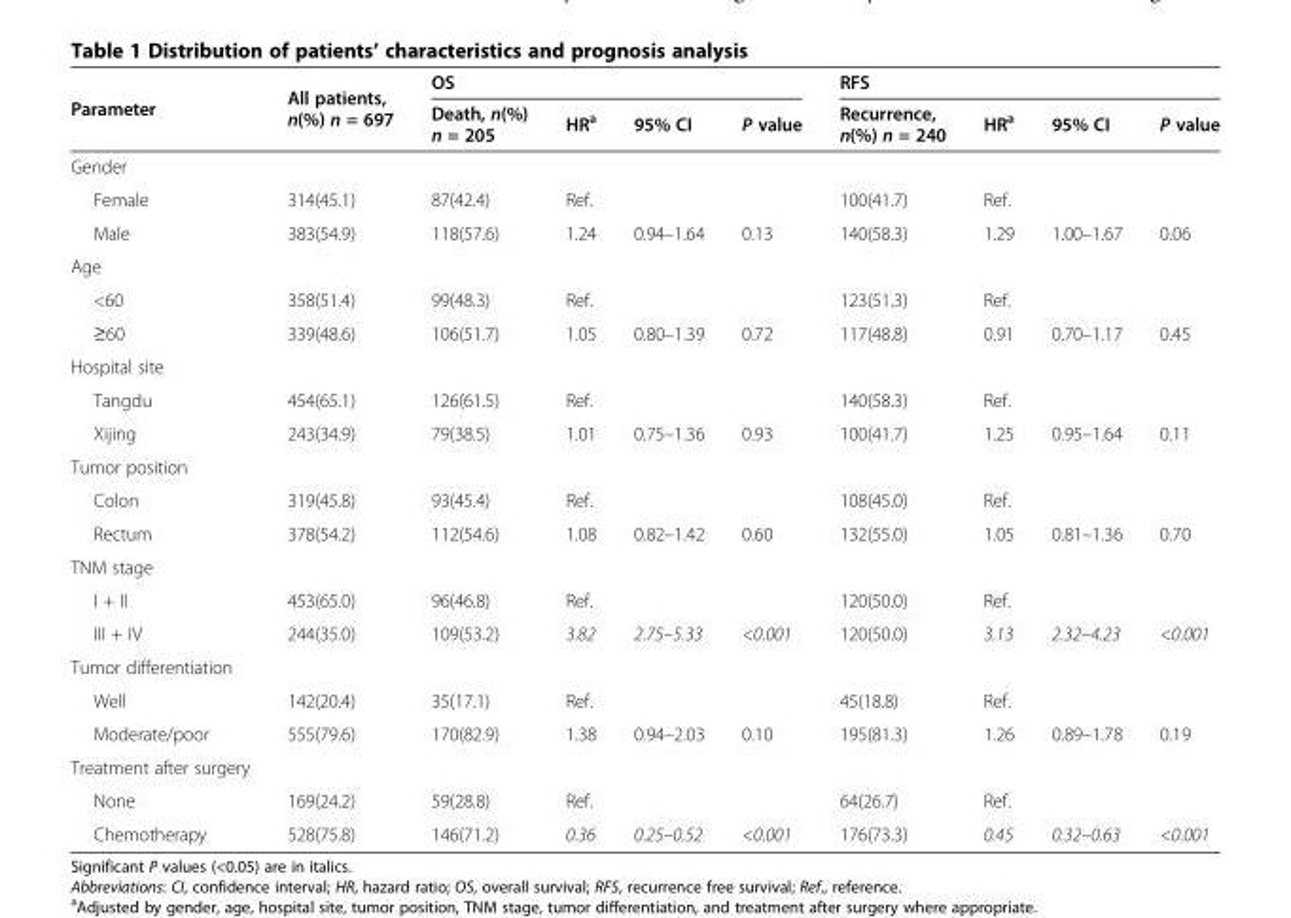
<table><thead><tr><td rowspan="2">Parameter</td><td rowspan="2">All patients, n(%) n = 697</td><td colspan="4">OS</td><td colspan="4">RFS</td></tr><tr><td>Death, n(%) n = 205</td><td>HR<sup>a</sup></td><td>95% CI</td><td>P value</td><td>Recurrence, n(%) n = 240</td><td>HR<sup>a</sup></td><td>95% CI</td><td>P value</td></tr></thead><tbody><tr><td colspan="10">Gender</td></tr><tr><td>Female</td><td>314(45.1)</td><td>87(42.4)</td><td>Ref.</td><td></td><td></td><td>100(41.7)</td><td>Ref.</td><td></td><td></td></tr><tr><td>Male</td><td>383(54.9)</td><td>118(57.6)</td><td>1.24</td><td>0.94–1.64</td><td>0.13</td><td>140(58.3)</td><td>1.29</td><td>1.00–1.67</td><td>0.06</td></tr><tr><td colspan="10">Age</td></tr><tr><td>&lt;60</td><td>358(51.4)</td><td>99(48.3)</td><td>Ref.</td><td></td><td></td><td>123(51.3)</td><td>Ref.</td><td></td><td></td></tr><tr><td>≥60</td><td>339(48.6)</td><td>106(51.7)</td><td>1.05</td><td>0.80–1.39</td><td>0.72</td><td>117(48.8)</td><td>0.91</td><td>0.70–1.17</td><td>0.45</td></tr><tr><td colspan="10">Hospital site</td></tr><tr><td>Tangdu</td><td>454(65.1)</td><td>126(61.5)</td><td>Ref.</td><td></td><td></td><td>140(58.3)</td><td>Ref.</td><td></td><td></td></tr><tr><td>Xijing</td><td>243(34.9)</td><td>79(38.5)</td><td>1.01</td><td>0.75–1.36</td><td>0.93</td><td>100(41.7)</td><td>1.25</td><td>0.95–1.64</td><td>0.11</td></tr><tr><td colspan="10">Tumor position</td></tr><tr><td>Colon</td><td>319(45.8)</td><td>93(45.4)</td><td>Ref.</td><td></td><td></td><td>108(45.0)</td><td>Ref.</td><td></td><td></td></tr><tr><td>Rectum</td><td>378(54.2)</td><td>112(54.6)</td><td>1.08</td><td>0.82–1.42</td><td>0.60</td><td>132(55.0)</td><td>1.05</td><td>0.81–1.36</td><td>0.70</td></tr><tr><td colspan="10">TNM stage</td></tr><tr><td>I + II</td><td>453(65.0)</td><td>96(46.8)</td><td>Ref.</td><td></td><td></td><td>120(50.0)</td><td>Ref.</td><td></td><td></td></tr><tr><td>III + IV</td><td>244(35.0)</td><td>109(53.2)</td><td>3.82</td><td>2.75–5.33</td><td>&lt;0.001</td><td>120(50.0)</td><td>3.13</td><td>2.32–4.23</td><td>&lt;0.001</td></tr><tr><td colspan="10">Tumor differentiation</td></tr><tr><td>Well</td><td>142(20.4)</td><td>35(17.1)</td><td>Ref.</td><td></td><td></td><td>45(18.8)</td><td>Ref.</td><td></td><td></td></tr><tr><td>Moderate/poor</td><td>555(79.6)</td><td>170(82.9)</td><td>1.38</td><td>0.94–2.03</td><td>0.10</td><td>195(81.3)</td><td>1.26</td><td>0.89–1.78</td><td>0.19</td></tr><tr><td colspan="10">Treatment after surgery</td></tr><tr><td>None</td><td>169(24.2)</td><td>59(28.8)</td><td>Ref.</td><td></td><td></td><td>64(26.7)</td><td>Ref.</td><td></td><td></td></tr><tr><td>Chemotherapy</td><td>528(75.8)</td><td>146(71.2)</td><td>0.36</td><td>0.25–0.52</td><td>&lt;0.001</td><td>176(73.3)</td><td>0.45</td><td>0.32–0.63</td><td>&lt;0.001</td></tr></tbody></table>